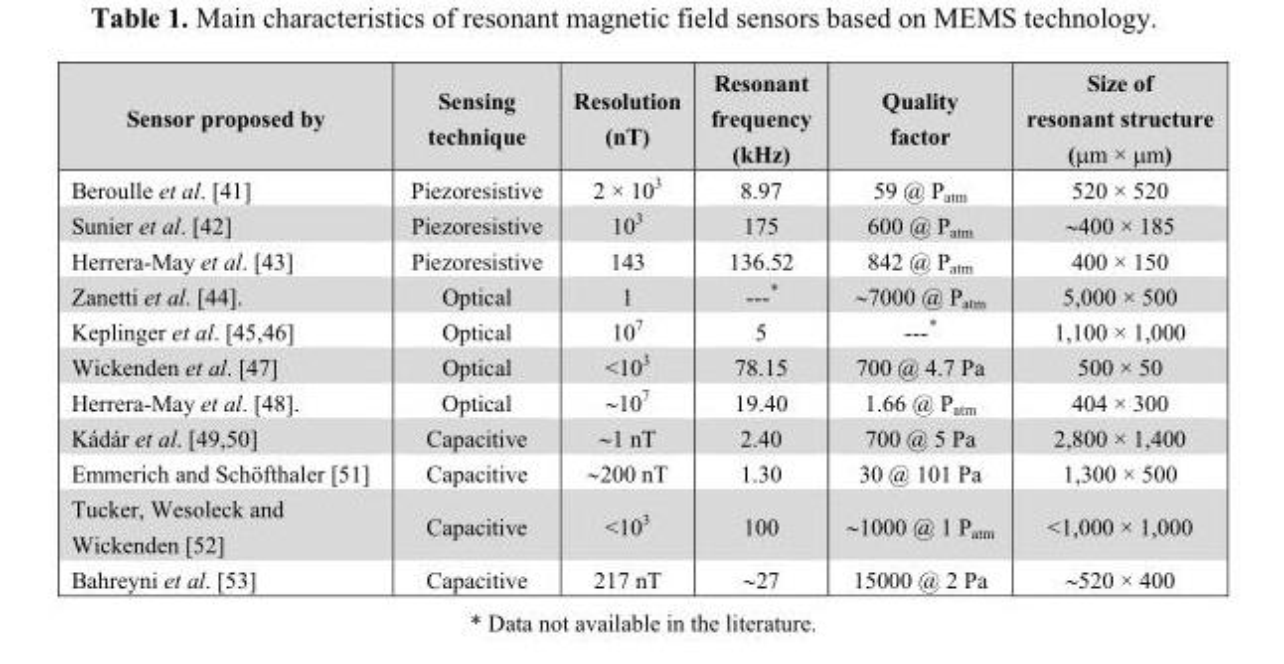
<table><thead><tr><td>Sensor proposed by</td><td>Sensing technique</td><td>Resolution (nT)</td><td>Resonant frequency (kHz)</td><td>Quality factor</td><td>Size of resonant structure (μm × μm)</td></tr></thead><tbody><tr><td>Beroulle et al. [41]</td><td>Piezoresistive</td><td>2 × 10<sup>3</sup></td><td>8.97</td><td>59 @ P<sub>atm</sub></td><td>520 × 520</td></tr><tr><td>Sunier et al. [42]</td><td>Piezoresistive</td><td>10<sup>3</sup></td><td>175</td><td>600 @ P<sub>atm</sub></td><td>∼400 × 185</td></tr><tr><td>Herrera-May et al. [43]</td><td>Piezoresistive</td><td>143</td><td>136.52</td><td>842 @ P<sub>atm</sub></td><td>400 × 150</td></tr><tr><td>Zanetti et al. [44].</td><td>Optical</td><td>1</td><td>---*</td><td>∼7000 @ P<sub>atm</sub></td><td>5,000 × 500</td></tr><tr><td>Keplinger et al. [45,46]</td><td>Optical</td><td>10<sup>7</sup></td><td>5</td><td>---*</td><td>1,100 × 1,000</td></tr><tr><td>Wickenden et al. [47]</td><td>Optical</td><td>&lt;10<sup>3</sup></td><td>78.15</td><td>700 @ 4.7 Pa</td><td>500 × 50</td></tr><tr><td>Herrera-May et al. [48].</td><td>Optical</td><td>∼10<sup>7</sup></td><td>19.40</td><td>1.66 @ P<sub>atm</sub></td><td>404 × 300</td></tr><tr><td>Kádár et al. [49,50]</td><td>Capacitive</td><td>∼1 nT</td><td>2.40</td><td>700 @ 5 Pa</td><td>2,800 × 1,400</td></tr><tr><td>Emmerich and Schöfthaler [51]</td><td>Capacitive</td><td>∼200 nT</td><td>1.30</td><td>30 @ 101 Pa</td><td>1,300 × 500</td></tr><tr><td>Tucker, Wesoleck and Wickenden [52]</td><td>Capacitive</td><td>&lt;10<sup>3</sup></td><td>100</td><td>∼1000 @ 1 P<sub>atm</sub></td><td>&lt;1,000 × 1,000</td></tr><tr><td>Bahreyni et al. [53]</td><td>Capacitive</td><td>217 nT</td><td>∼27</td><td>15000 @ 2 Pa</td><td>∼520 × 400</td></tr></tbody></table>